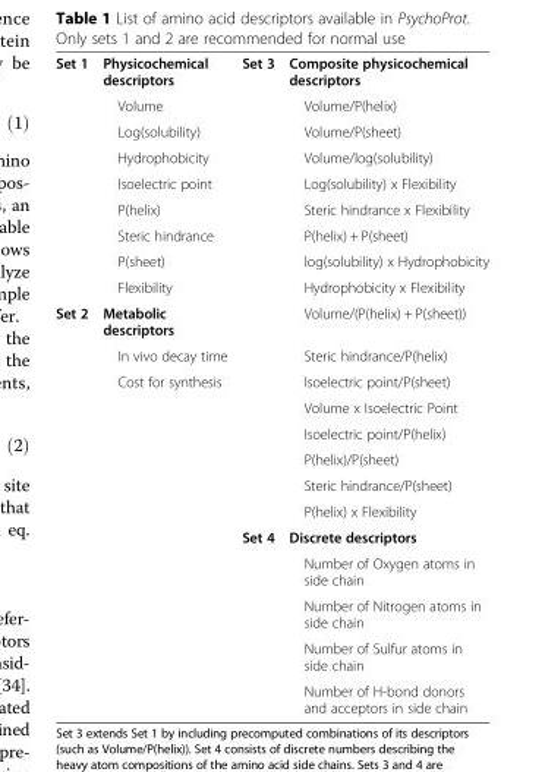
<table><tbody><tr><td rowspan="9">Set 1</td><td>Physicochemical descriptors</td><td>Set 3</td><td>Composite physicochemical descriptors</td></tr><tr><td>Volume</td><td></td><td>Volume/P(helix)</td></tr><tr><td>Log(solubility)</td><td></td><td>Volume/P(sheet)</td></tr><tr><td>Hydrophobicity</td><td></td><td>Volume/log(solubility)</td></tr><tr><td>Isoelectric point</td><td></td><td>Log(solubility) x Flexibility</td></tr><tr><td>P(helix)</td><td></td><td>Steric hindrance x Flexibility</td></tr><tr><td>Steric hindrance</td><td></td><td>P(helix) + P(sheet)</td></tr><tr><td>P(sheet)</td><td></td><td>log(solubility) x Hydrophobicity</td></tr><tr><td>Flexibility</td><td></td><td>Hydrophobicity x Flexibility</td></tr><tr><td rowspan="13">Set 2</td><td>Metabolic descriptors</td><td></td><td>Volume/(P(helix) + P(sheet))</td></tr><tr><td>In vivo decay time</td><td></td><td>Steric hindrance/P(helix)</td></tr><tr><td>Cost for synthesis</td><td></td><td>Isoelectric point/P(sheet)</td></tr><tr><td></td><td></td><td>Volume x Isoelectric Point</td></tr><tr><td></td><td></td><td>Isoelectric point/P(helix)</td></tr><tr><td></td><td></td><td>P(helix)/P(sheet)</td></tr><tr><td></td><td></td><td>Steric hindrance/P(sheet)</td></tr><tr><td></td><td></td><td>P(helix) x Flexibility</td></tr><tr><td></td><td>Set 4</td><td>Discrete descriptors</td></tr><tr><td></td><td></td><td>Number of Oxygen atoms in side chain</td></tr><tr><td></td><td></td><td>Number of Nitrogen atoms in side chain</td></tr><tr><td></td><td></td><td>Number of Sulfur atoms in side chain</td></tr><tr><td></td><td></td><td>Number of H-bond donors and acceptors in side chain</td></tr></tbody></table>